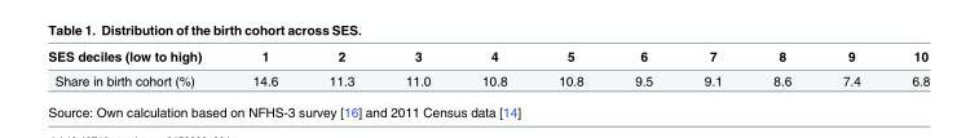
<table><thead><tr><td>SES deciles (low to high)</td><td>1</td><td>2</td><td>3</td><td>4</td><td>5</td><td>6</td><td>7</td><td>8</td><td>9</td><td>10</td></tr></thead><tbody><tr><td>Share in birth cohort (%)</td><td>14.6</td><td>11.3</td><td>11.0</td><td>10.8</td><td>10.8</td><td>9.5</td><td>9.1</td><td>8.6</td><td>7.4</td><td>6.8</td></tr></tbody></table>